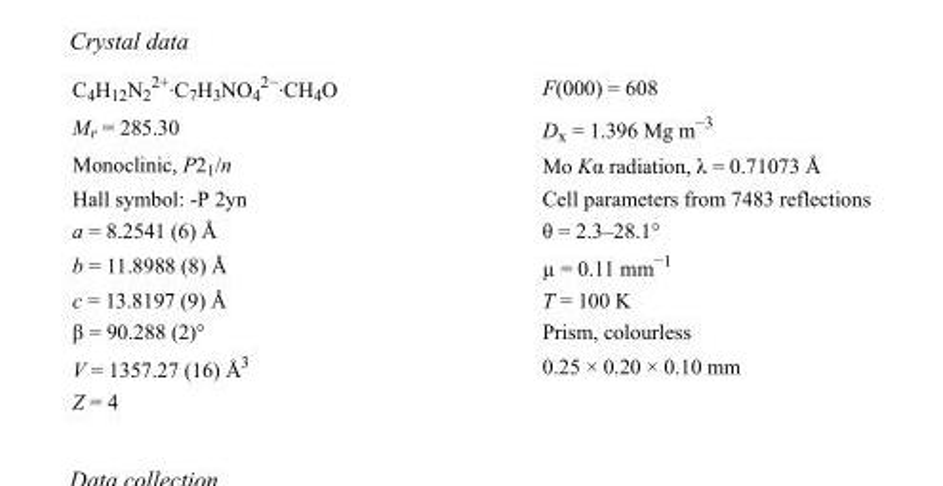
<table><tbody><tr><td>C<sub>4</sub>H<sub>12</sub>N<sub>2</sub> <sup>2+</sup>·C<sub>7</sub>H<sub>3</sub>NO<sub>4</sub> <sup>2−</sup>·CH<sub>4</sub>O</td><td>F(000) = 608</td></tr><tr><td>M<sub>r</sub> = 285.30</td><td>D<sub>x</sub> = 1.396 Mg m<sup>−3</sup></td></tr><tr><td>Monoclinic, P2<sub>1</sub>/n</td><td>Mo Kα radiation, λ = 0.71073 Å</td></tr><tr><td>Hall symbol: -P 2yn</td><td>Cell parameters from 7483 reflections</td></tr><tr><td>a = 8.2541 (6) Å</td><td>θ = 2.3–28.1°</td></tr><tr><td>b = 11.8988 (8) Å</td><td>µ = 0.11 mm<sup>−1</sup></td></tr><tr><td>c = 13.8197 (9) Å</td><td>T = 100 K</td></tr><tr><td>β = 90.288 (2)°</td><td>Prism, colourless</td></tr><tr><td>V = 1357.27 (16) Å<sup>3</sup></td><td>0.25 × 0.20 × 0.10 mm</td></tr><tr><td>Z = 4</td><td></td></tr></tbody></table>